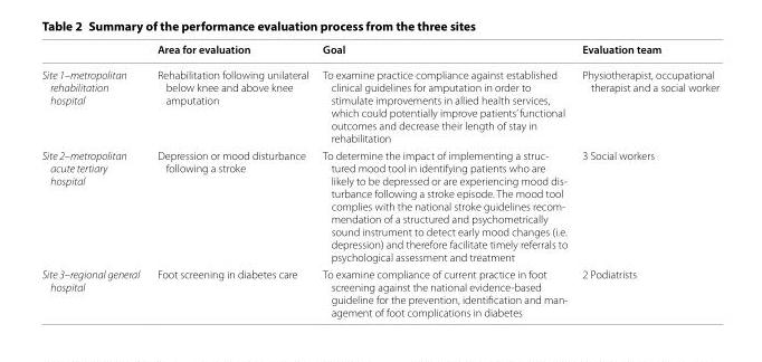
<table><thead><tr><td></td><td>Area for evaluation</td><td>Goal</td><td>Evaluation team</td></tr></thead><tbody><tr><td>Site 1–metropolitan rehabilitation hospital</td><td>Rehabilitation following unilateral below knee and above knee amputation</td><td>To examine practice compliance against established clinical guidelines for amputation in order to stimulate improvements in allied health services, which could potentially improve patients’ functional outcomes and decrease their length of stay in rehabilitation</td><td>Physiotherapist, occupational therapist and a social worker</td></tr><tr><td>Site 2–metropolitan acute tertiary hospital</td><td>Depression or mood disturbance following a stroke</td><td>To determine the impact of implementing a struc- tured mood tool in identifying patients who are likely to be depressed or are experiencing mood dis- turbance following a stroke episode. The mood tool complies with the national stroke guidelines recom- mendation of a structured and psychometrically sound instrument to detect early mood changes (i.e. depression) and therefore facilitate timely referrals to psychological assessment and treatment</td><td>3 Social workers</td></tr><tr><td>Site 3–regional general hospital</td><td>Foot screening in diabetes care</td><td>To examine compliance of current practice in foot screening against the national evidence-based guideline for the prevention, identification and man- agement of foot complications in diabetes</td><td>2 Podiatrists</td></tr></tbody></table>